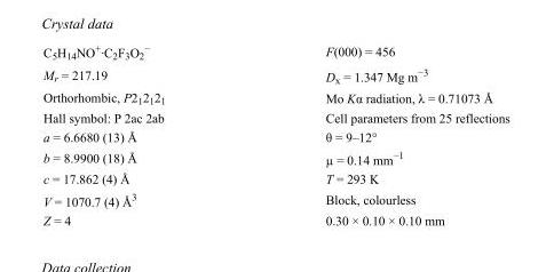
<table><tbody><tr><td>C<sub>5</sub>H<sub>14</sub>NO<sup>+</sup>·C<sub>2</sub>F<sub>3</sub>O<sub>2</sub> <sup>−</sup></td><td>F(000) = 456</td></tr><tr><td>M<sub>r</sub> = 217.19</td><td>D<sub>x</sub> = 1.347 Mg m<sup>−3</sup></td></tr><tr><td>Orthorhombic, P2<sub>1</sub>2<sub>1</sub>2<sub>1</sub></td><td>Mo Kα radiation, λ = 0.71073 Å</td></tr><tr><td>Hall symbol: P 2ac 2ab</td><td>Cell parameters from 25 reflections</td></tr><tr><td>a = 6.6680 (13) Å</td><td>θ = 9–12°</td></tr><tr><td>b = 8.9900 (18) Å</td><td>µ = 0.14 mm<sup>−1</sup></td></tr><tr><td>c = 17.862 (4) Å</td><td>T = 293 K</td></tr><tr><td>V = 1070.7 (4) Å<sup>3</sup></td><td>Block, colourless</td></tr><tr><td>Z = 4</td><td>0.30 × 0.10 × 0.10 mm</td></tr></tbody></table>